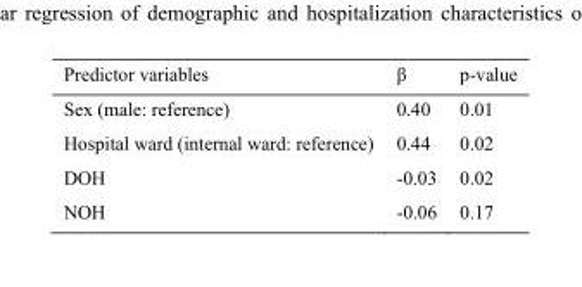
<table><thead><tr><td>Predictor variables</td><td>β</td><td>p-value</td></tr></thead><tbody><tr><td>Sex (male: reference)</td><td>0.40</td><td>0.01</td></tr><tr><td>Hospital ward (internal ward: reference)</td><td>0.44</td><td>0.02</td></tr><tr><td>DOH</td><td>-0.03</td><td>0.02</td></tr><tr><td>NOH</td><td>-0.06</td><td>0.17</td></tr></tbody></table>